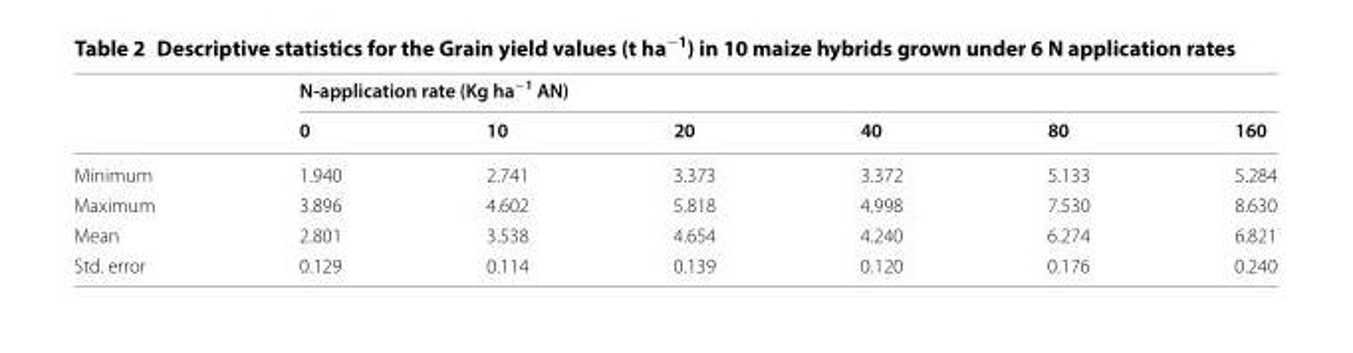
<table><thead><tr><td rowspan="2"></td><td colspan="6">N‑application rate (Kg ha<sup>−1</sup> AN)</td></tr><tr><td>0</td><td>10</td><td>20</td><td>40</td><td>80</td><td>160</td></tr></thead><tbody><tr><td>Minimum</td><td>1.940</td><td>2.741</td><td>3.373</td><td>3.372</td><td>5.133</td><td>5.284</td></tr><tr><td>Maximum</td><td>3.896</td><td>4.602</td><td>5.818</td><td>4.998</td><td>7.530</td><td>8.630</td></tr><tr><td>Mean</td><td>2.801</td><td>3.538</td><td>4.654</td><td>4.240</td><td>6.274</td><td>6.821</td></tr><tr><td>Std. error</td><td>0.129</td><td>0.114</td><td>0.139</td><td>0.120</td><td>0.176</td><td>0.240</td></tr></tbody></table>